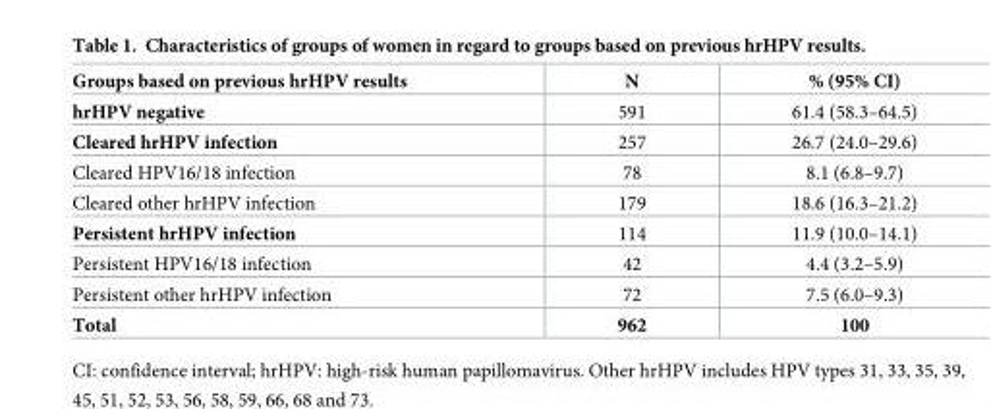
<table><thead><tr><td>Groups based on previous hrHPV results</td><td>N</td><td>% (95% CI)</td></tr></thead><tbody><tr><td>hrHPV negative</td><td>591</td><td>61.4 (58.3–64.5)</td></tr><tr><td>Cleared hrHPV infection</td><td>257</td><td>26.7 (24.0–29.6)</td></tr><tr><td>Cleared HPV16/18 infection</td><td>78</td><td>8.1 (6.8–9.7)</td></tr><tr><td>Cleared other hrHPV infection</td><td>179</td><td>18.6 (16.3–21.2)</td></tr><tr><td>Persistent hrHPV infection</td><td>114</td><td>11.9 (10.0–14.1)</td></tr><tr><td>Persistent HPV16/18 infection</td><td>42</td><td>4.4 (3.2–5.9)</td></tr><tr><td>Persistent other hrHPV infection</td><td>72</td><td>7.5 (6.0–9.3)</td></tr><tr><td>Total</td><td>962</td><td>100</td></tr></tbody></table>